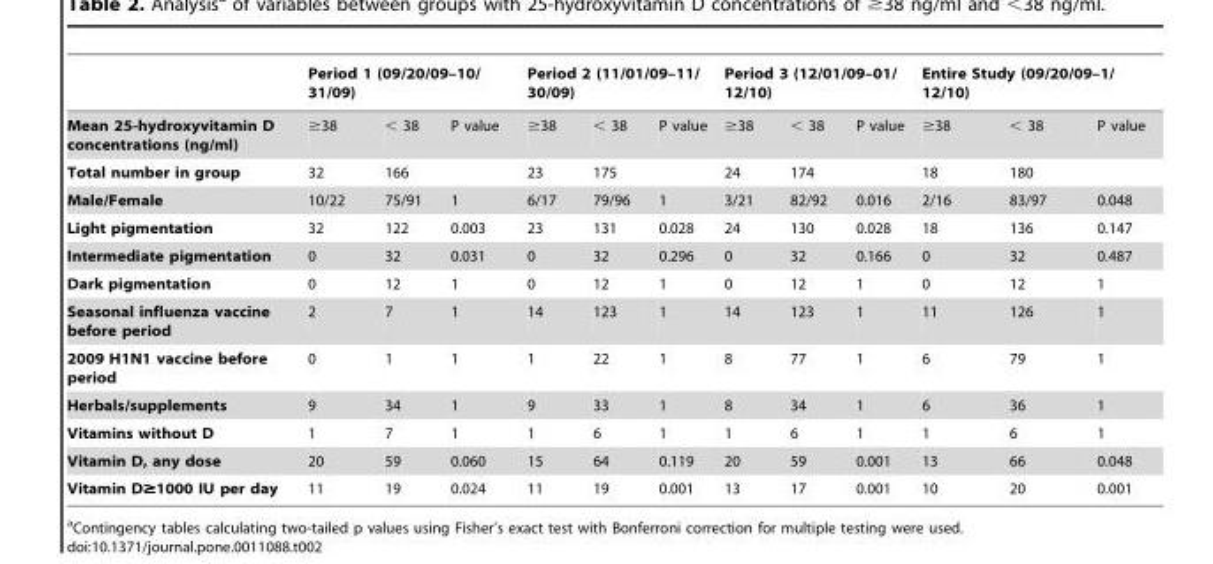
<table><thead><tr><td rowspan="2">Mean 25-hydroxyvitamin D concentrations (ng/ml)</td><td colspan="3">Period 1 (09/20/09–10/ 31/09)</td><td colspan="3">Period 2 (11/01/09–11/ 30/09)</td><td colspan="3">Period 3 (12/01/09–01/ 12/10)</td><td colspan="3">Entire Study (09/20/09–1/ 12/10)</td></tr><tr><td>≥38</td><td>&lt; 38</td><td>P value</td><td>≥38</td><td>&lt; 38</td><td>P value</td><td>≥38</td><td>&lt; 38</td><td>P value</td><td>≥38</td><td>&lt; 38</td><td>P value</td></tr></thead><tbody><tr><td>Total number in group</td><td>32</td><td>166</td><td></td><td>23</td><td>175</td><td></td><td>24</td><td>174</td><td></td><td>18</td><td>180</td><td></td></tr><tr><td>Male/Female</td><td>10/22</td><td>75/91</td><td>1</td><td>6/17</td><td>79/96</td><td>1</td><td>3/21</td><td>82/92</td><td>0.016</td><td>2/16</td><td>83/97</td><td>0.048</td></tr><tr><td>Light pigmentation</td><td>32</td><td>122</td><td>0.003</td><td>23</td><td>131</td><td>0.028</td><td>24</td><td>130</td><td>0.028</td><td>18</td><td>136</td><td>0.147</td></tr><tr><td>Intermediate pigmentation</td><td>0</td><td>32</td><td>0.031</td><td>0</td><td>32</td><td>0.296</td><td>0</td><td>32</td><td>0.166</td><td>0</td><td>32</td><td>0.487</td></tr><tr><td>Dark pigmentation</td><td>0</td><td>12</td><td>1</td><td>0</td><td>12</td><td>1</td><td>0</td><td>12</td><td>1</td><td>0</td><td>12</td><td>1</td></tr><tr><td>Seasonal influenza vaccine before period</td><td>2</td><td>7</td><td>1</td><td>14</td><td>123</td><td>1</td><td>14</td><td>123</td><td>1</td><td>11</td><td>126</td><td>1</td></tr><tr><td>2009 H1N1 vaccine before period</td><td>0</td><td>1</td><td>1</td><td>1</td><td>22</td><td>1</td><td>8</td><td>77</td><td>1</td><td>6</td><td>79</td><td>1</td></tr><tr><td>Herbals/supplements</td><td>9</td><td>34</td><td>1</td><td>9</td><td>33</td><td>1</td><td>8</td><td>34</td><td>1</td><td>6</td><td>36</td><td>1</td></tr><tr><td>Vitamins without D</td><td>1</td><td>7</td><td>1</td><td>1</td><td>6</td><td>1</td><td>1</td><td>6</td><td>1</td><td>1</td><td>6</td><td>1</td></tr><tr><td>Vitamin D, any dose</td><td>20</td><td>59</td><td>0.060</td><td>15</td><td>64</td><td>0.119</td><td>20</td><td>59</td><td>0.001</td><td>13</td><td>66</td><td>0.048</td></tr><tr><td>Vitamin D≥1000 IU per day</td><td>11</td><td>19</td><td>0.024</td><td>11</td><td>19</td><td>0.001</td><td>13</td><td>17</td><td>0.001</td><td>10</td><td>20</td><td>0.001</td></tr></tbody></table>